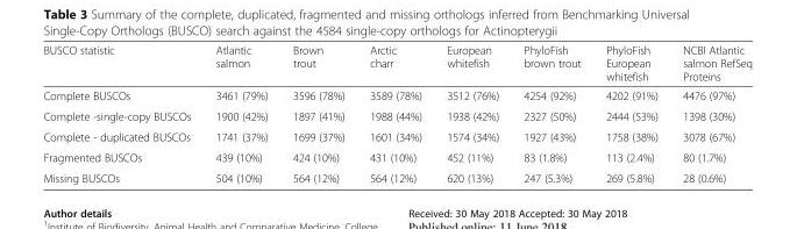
<table><thead><tr><td>BUSCO statistic</td><td>Atlantic salmon</td><td>Brown trout</td><td>Arctic charr</td><td>European whitefish</td><td>PhyloFish brown trout</td><td>PhyloFish European whitefish</td><td>NCBI Atlantic salmon RefSeq Proteins</td></tr></thead><tbody><tr><td>Complete BUSCOs</td><td>3461 (79%)</td><td>3596 (78%)</td><td>3589 (78%)</td><td>3512 (76%)</td><td>4254 (92%)</td><td>4202 (91%)</td><td>4476 (97%)</td></tr><tr><td>Complete -single-copy BUSCOs</td><td>1900 (42%)</td><td>1897 (41%)</td><td>1988 (44%)</td><td>1938 (42%)</td><td>2327 (50%)</td><td>2444 (53%)</td><td>1398 (30%)</td></tr><tr><td>Complete - duplicated BUSCOs</td><td>1741 (37%)</td><td>1699 (37%)</td><td>1601 (34%)</td><td>1574 (34%)</td><td>1927 (43%)</td><td>1758 (38%)</td><td>3078 (67%)</td></tr><tr><td>Fragmented BUSCOs</td><td>439 (10%)</td><td>424 (10%)</td><td>431 (10%)</td><td>452 (11%)</td><td>83 (1.8%)</td><td>113 (2.4%)</td><td>80 (1.7%)</td></tr><tr><td>Missing BUSCOs</td><td>504 (10%)</td><td>564 (12%)</td><td>564 (12%)</td><td>620 (13%)</td><td>247 (5.3%)</td><td>269 (5.8%)</td><td>28 (0.6%)</td></tr></tbody></table>